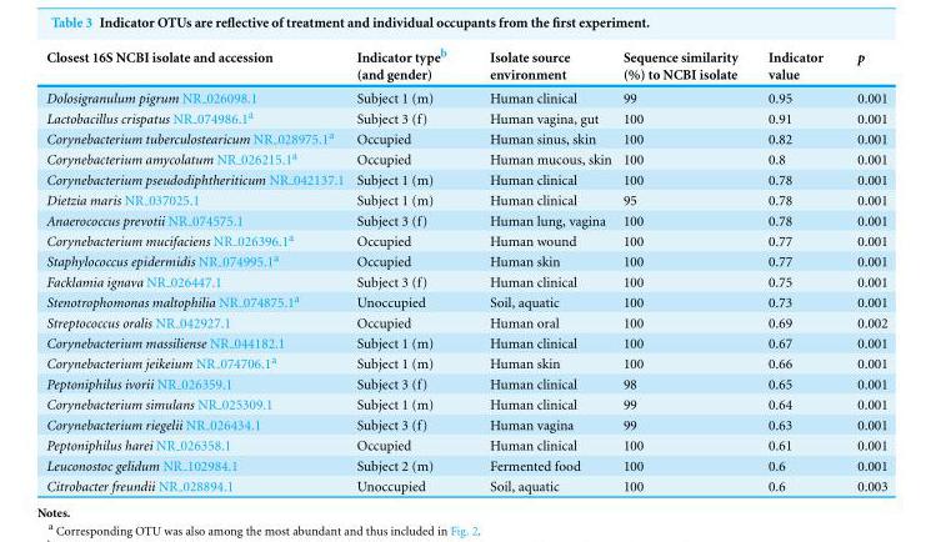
<table><thead><tr><td>Closest 16S NCBI isolate and accession</td><td>Indicator type<sup>b</sup> (and gender)</td><td>Isolate source environment</td><td>Sequence similarity (%) to NCBI isolate</td><td>Indicator value</td><td>p</td></tr></thead><tbody><tr><td>Dolosigranulum pigrum NR 026098.1</td><td>Subject 1 (m)</td><td>Human clinical</td><td>99</td><td>0.95</td><td>0.001</td></tr><tr><td>Lactobacillus crispatus NR 074986.1a</td><td>Subject 3 (f)</td><td>Human vagina, gut</td><td>100</td><td>0.91</td><td>0.001</td></tr><tr><td>Corynebacterium tuberculostearicum NR 028975.1a</td><td>Occupied</td><td>Human sinus, skin</td><td>100</td><td>0.82</td><td>0.001</td></tr><tr><td>Corynebacterium amycolatum NR 026215.1a</td><td>Occupied</td><td>Human mucous, skin</td><td>100</td><td>0.8</td><td>0.001</td></tr><tr><td>Corynebacterium pseudodiphtheriticum NR 042137.1</td><td>Subject 1 (m)</td><td>Human clinical</td><td>100</td><td>0.78</td><td>0.001</td></tr><tr><td>Dietzia maris NR 037025.1</td><td>Subject 1 (m)</td><td>Human clinical</td><td>95</td><td>0.78</td><td>0.001</td></tr><tr><td>Anaerococcus prevotii NR 074575.1</td><td>Subject 3 (f)</td><td>Human lung, vagina</td><td>100</td><td>0.78</td><td>0.001</td></tr><tr><td>Corynebacterium mucifaciens NR 026396.1a</td><td>Occupied</td><td>Human wound</td><td>100</td><td>0.77</td><td>0.001</td></tr><tr><td>Staphylococcus epidermidis NR 074995.1a</td><td>Occupied</td><td>Human skin</td><td>100</td><td>0.77</td><td>0.001</td></tr><tr><td>Facklamia ignava NR 026447.1</td><td>Subject 3 (f)</td><td>Human clinical</td><td>100</td><td>0.75</td><td>0.001</td></tr><tr><td>Stenotrophomonas maltophilia NR 074875.1a</td><td>Unoccupied</td><td>Soil, aquatic</td><td>100</td><td>0.73</td><td>0.001</td></tr><tr><td>Streptococcus oralis NR 042927.1</td><td>Occupied</td><td>Human oral</td><td>100</td><td>0.69</td><td>0.002</td></tr><tr><td>Corynebacterium massiliense NR 044182.1</td><td>Subject 1 (m)</td><td>Human clinical</td><td>100</td><td>0.67</td><td>0.001</td></tr><tr><td>Corynebacterium jeikeium NR 074706.1a</td><td>Subject 1 (m)</td><td>Human skin</td><td>100</td><td>0.66</td><td>0.001</td></tr><tr><td>Peptoniphilus ivorii NR 026359.1</td><td>Subject 3 (f)</td><td>Human clinical</td><td>98</td><td>0.65</td><td>0.001</td></tr><tr><td>Corynebacterium simulans NR 025309.1</td><td>Subject 1 (m)</td><td>Human clinical</td><td>99</td><td>0.64</td><td>0.001</td></tr><tr><td>Corynebacterium riegelii NR 026434.1</td><td>Subject 3 (f)</td><td>Human vagina</td><td>99</td><td>0.63</td><td>0.001</td></tr><tr><td>Peptoniphilus harei NR 026358.1</td><td>Occupied</td><td>Human clinical</td><td>100</td><td>0.61</td><td>0.001</td></tr><tr><td>Leuconostoc gelidum NR 102984.1</td><td>Subject 2 (m)</td><td>Fermented food</td><td>100</td><td>0.6</td><td>0.001</td></tr><tr><td>Citrobacter freundii NR 028894.1</td><td>Unoccupied</td><td>Soil, aquatic</td><td>100</td><td>0.6</td><td>0.003</td></tr></tbody></table>